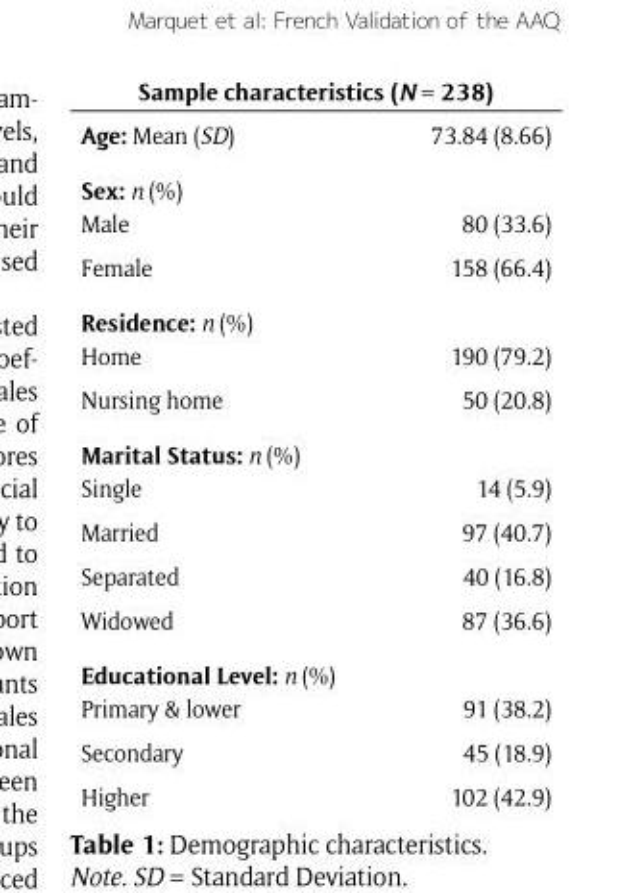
<table><thead><tr><td colspan="2">Sample characteristics (N = 238)</td></tr><tr><td>Age: Mean (SD)</td><td>73.84 (8.66)</td></tr></thead><tbody><tr><td colspan="2">Sex: n (%)</td></tr><tr><td>Male</td><td>80 (33.6)</td></tr><tr><td>Female</td><td>158 (66.4)</td></tr><tr><td colspan="2">Residence: n (%)</td></tr><tr><td>Home</td><td>190 (79.2)</td></tr><tr><td>Nursing home</td><td>50 (20.8)</td></tr><tr><td colspan="2">Marital Status: n (%)</td></tr><tr><td>Single</td><td>14 (5.9)</td></tr><tr><td>Married</td><td>97 (40.7)</td></tr><tr><td>Separated</td><td>40 (16.8)</td></tr><tr><td>Widowed</td><td>87 (36.6)</td></tr><tr><td colspan="2">Educational Level: n (%)</td></tr><tr><td>Primary &amp; lower</td><td>91 (38.2)</td></tr><tr><td>Secondary</td><td>45 (18.9)</td></tr><tr><td>Higher</td><td>102 (42.9)</td></tr></tbody></table>